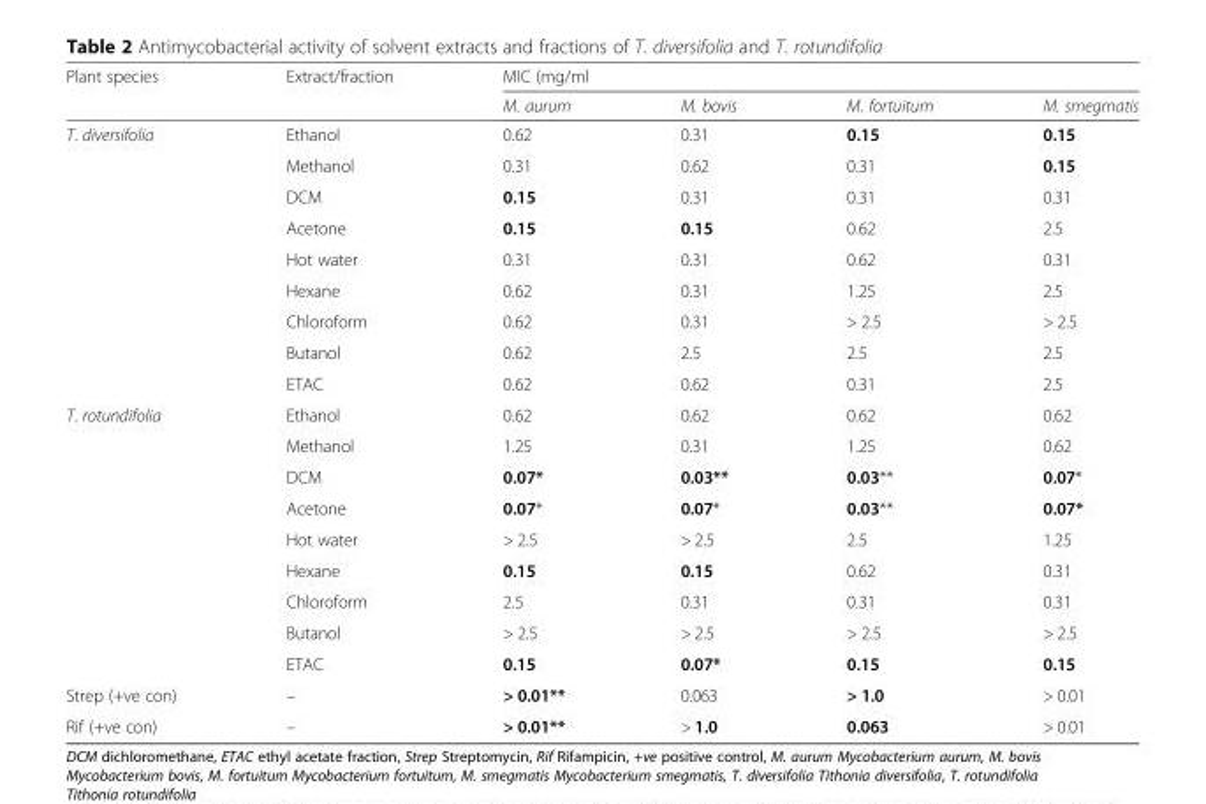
<table><thead><tr><td rowspan="2">Plant species</td><td rowspan="2">Extract/fraction</td><td colspan="4">MIC (mg/ml</td></tr><tr><td>M. aurum</td><td>M. bovis</td><td>M. fortuitum</td><td>M. smegmatis</td></tr></thead><tbody><tr><td rowspan="9">T. diversifolia</td><td>Ethanol</td><td>0.62</td><td>0.31</td><td>0.15</td><td>0.15</td></tr><tr><td>Methanol</td><td>0.31</td><td>0.62</td><td>0.31</td><td>0.15</td></tr><tr><td>DCM</td><td>0.15</td><td>0.31</td><td>0.31</td><td>0.31</td></tr><tr><td>Acetone</td><td>0.15</td><td>0.15</td><td>0.62</td><td>2.5</td></tr><tr><td>Hot water</td><td>0.31</td><td>0.31</td><td>0.62</td><td>0.31</td></tr><tr><td>Hexane</td><td>0.62</td><td>0.31</td><td>1.25</td><td>2.5</td></tr><tr><td>Chloroform</td><td>0.62</td><td>0.31</td><td>&gt; 2.5</td><td>&gt; 2.5</td></tr><tr><td>Butanol</td><td>0.62</td><td>2.5</td><td>2.5</td><td>2.5</td></tr><tr><td>ETAC</td><td>0.62</td><td>0.62</td><td>0.31</td><td>2.5</td></tr><tr><td rowspan="9">T. rotundifolia</td><td>Ethanol</td><td>0.62</td><td>0.62</td><td>0.62</td><td>0.62</td></tr><tr><td>Methanol</td><td>1.25</td><td>0.31</td><td>1.25</td><td>0.62</td></tr><tr><td>DCM</td><td>0.07*</td><td>0.03**</td><td>0.03**</td><td>0.07*</td></tr><tr><td>Acetone</td><td>0.07*</td><td>0.07*</td><td>0.03**</td><td>0.07*</td></tr><tr><td>Hot water</td><td>&gt; 2.5</td><td>&gt; 2.5</td><td>2.5</td><td>1.25</td></tr><tr><td>Hexane</td><td>0.15</td><td>0.15</td><td>0.62</td><td>0.31</td></tr><tr><td>Chloroform</td><td>2.5</td><td>0.31</td><td>0.31</td><td>0.31</td></tr><tr><td>Butanol</td><td>&gt; 2.5</td><td>&gt; 2.5</td><td>&gt; 2.5</td><td>&gt; 2.5</td></tr><tr><td>ETAC</td><td>0.15</td><td>0.07*</td><td>0.15</td><td>0.15</td></tr><tr><td>Strep (+ve con)</td><td>–</td><td>&gt; 0.01**</td><td>0.063</td><td>&gt; 1.0</td><td>&gt; 0.01</td></tr><tr><td>Rif (+ve con)</td><td>–</td><td>&gt; 0.01**</td><td>&gt; 1.0</td><td>0.063</td><td>&gt; 0.01</td></tr></tbody></table>